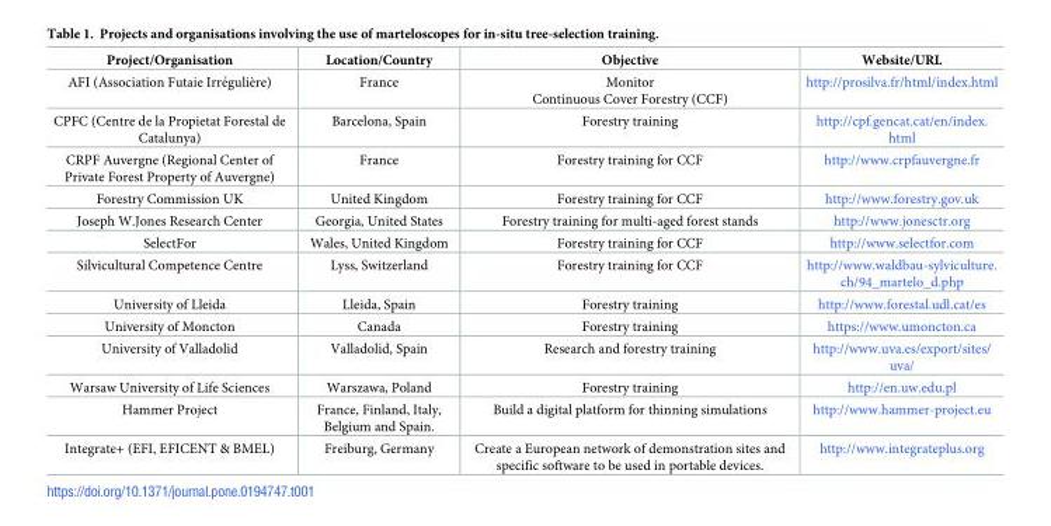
<table><thead><tr><td>Project/Organisation</td><td>Location/Country</td><td>Objective</td><td>Website/URL</td></tr></thead><tbody><tr><td>AFI (Association Futaie Irre´gulière)</td><td>France</td><td>Monitor Continuous Cover Forestry (CCF)</td><td>http://prosilva.fr/html/index.html</td></tr><tr><td>CPFC (Centre de la Propietat Forestal de Catalunya)</td><td>Barcelona, Spain</td><td>Forestry training</td><td>http://cpf.gencat.cat/en/index. html</td></tr><tr><td>CRPF Auvergne (Regional Center of Private Forest Property of Auvergne)</td><td>France</td><td>Forestry training for CCF</td><td>http://www.crpfauvergne.fr</td></tr><tr><td>Forestry Commission UK</td><td>United Kingdom</td><td>Forestry training for CCF</td><td>http://www.forestry.gov.uk</td></tr><tr><td>Joseph W.Jones Research Center</td><td>Georgia, United States</td><td>Forestry training for multi-aged forest stands</td><td>http://www.jonesctr.org</td></tr><tr><td>SelectFor</td><td>Wales, United Kingdom</td><td>Forestry training for CCF</td><td>http://www.selectfor.com</td></tr><tr><td>Silvicultural Competence Centre</td><td>Lyss, Switzerland</td><td>Forestry training for CCF</td><td>http://www.waldbau-sylviculture. ch/94_martelo_d.php</td></tr><tr><td>University of Lleida</td><td>Lleida, Spain</td><td>Forestry training</td><td>http://www.forestal.udl.cat/es</td></tr><tr><td>University of Moncton</td><td>Canada</td><td>Forestry training</td><td>https://www.umoncton.ca</td></tr><tr><td>University of Valladolid</td><td>Valladolid, Spain</td><td>Research and forestry training</td><td>http://www.uva.es/export/sites/ uva/</td></tr><tr><td>Warsaw University of Life Sciences</td><td>Warszawa, Poland</td><td>Forestry training</td><td>http://en.uw.edu.pl</td></tr><tr><td>Hammer Project</td><td>France, Finland, Italy, Belgium and Spain.</td><td>Build a digital platform for thinning simulations</td><td>http://www.hammer-project.eu</td></tr><tr><td>Integrate+ (EFI, EFICENT &amp; BMEL)</td><td>Freiburg, Germany</td><td>Create a European network of demonstration sites and specific software to be used in portable devices.</td><td>http://www.integrateplus.org</td></tr></tbody></table>